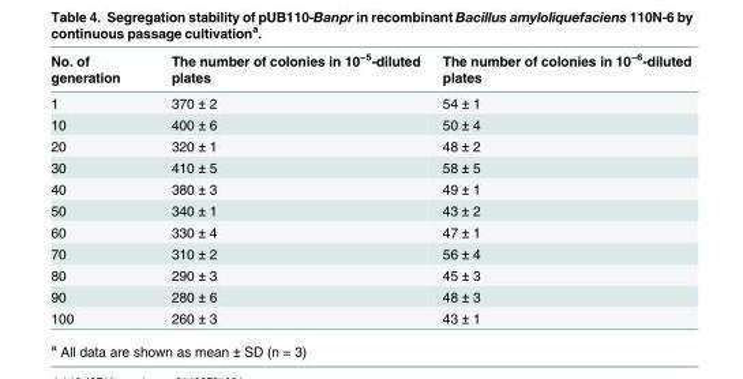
<table><thead><tr><td>No. of generation</td><td>The number of colonies in 10<sup>−5</sup>-diluted plates</td><td>The number of colonies in 10<sup>−6</sup>-diluted plates</td></tr></thead><tbody><tr><td>1</td><td>370 ± 2</td><td>54 ± 1</td></tr><tr><td>10</td><td>400 ± 6</td><td>50 ± 4</td></tr><tr><td>20</td><td>320 ± 1</td><td>48 ± 2</td></tr><tr><td>30</td><td>410 ± 5</td><td>58 ± 5</td></tr><tr><td>40</td><td>380 ± 3</td><td>49 ± 1</td></tr><tr><td>50</td><td>340 ± 1</td><td>43 ± 2</td></tr><tr><td>60</td><td>330 ± 4</td><td>47 ± 1</td></tr><tr><td>70</td><td>310 ± 2</td><td>56 ± 4</td></tr><tr><td>80</td><td>290 ± 3</td><td>45 ± 3</td></tr><tr><td>90</td><td>280 ± 6</td><td>48 ± 3</td></tr><tr><td>100</td><td>260 ± 3</td><td>43 ± 1</td></tr></tbody></table>